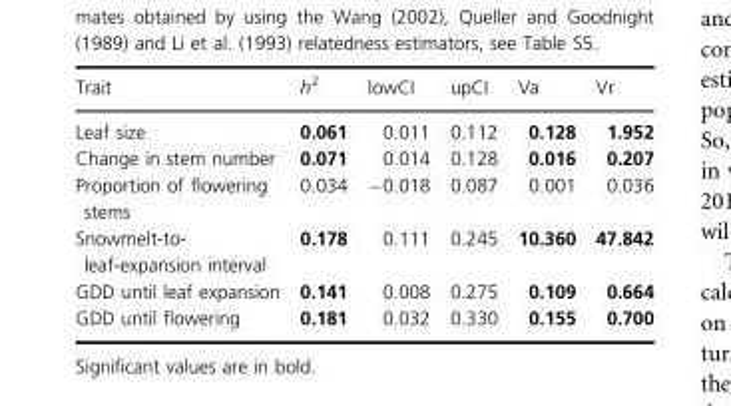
<table><thead><tr><td>Trait</td><td>h<sup>2</sup></td><td>lowCI</td><td>upCI</td><td>Va</td><td>Vr</td></tr></thead><tbody><tr><td>Leaf size</td><td>0.061</td><td>0.011</td><td>0.112</td><td>0.128</td><td>1.952</td></tr><tr><td>Change in stem number</td><td>0.071</td><td>0.014</td><td>0.128</td><td>0.016</td><td>0.207</td></tr><tr><td>Proportion of flowering stems</td><td>0.034</td><td>−0.018</td><td>0.087</td><td>0.001</td><td>0.036</td></tr><tr><td>Snowmelt-to- leaf-expansion interval</td><td>0.178</td><td>0.111</td><td>0.245</td><td>10.360</td><td>47.842</td></tr><tr><td>GDD until leaf expansion</td><td>0.141</td><td>0.008</td><td>0.275</td><td>0.109</td><td>0.664</td></tr><tr><td>GDD until flowering</td><td>0.181</td><td>0.032</td><td>0.330</td><td>0.155</td><td>0.700</td></tr></tbody></table>